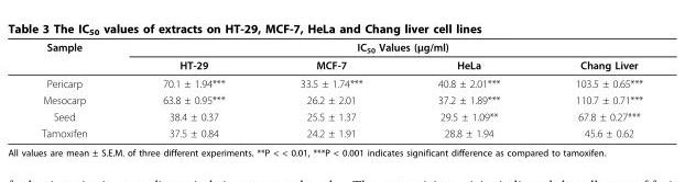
<table><thead><tr><td rowspan="2">Sample</td><td colspan="4">IC<sub>50</sub> Values (μg/ml)</td></tr><tr><td>HT-29</td><td>MCF-7</td><td>HeLa</td><td>Chang Liver</td></tr></thead><tbody><tr><td>Pericarp</td><td>70.1 ± 1.94***</td><td>33.5 ± 1.74***</td><td>40.8 ± 2.01***</td><td>103.5 ± 0.65***</td></tr><tr><td>Mesocarp</td><td>63.8 ± 0.95***</td><td>26.2 ± 2.01</td><td>37.2 ± 1.89***</td><td>110.7 ± 0.71***</td></tr><tr><td>Seed</td><td>38.4 ± 0.37</td><td>25.5 ± 1.37</td><td>29.5 ± 1.09**</td><td>67.8 ± 0.27***</td></tr><tr><td>Tamoxifen</td><td>37.5 ± 0.84</td><td>24.2 ± 1.91</td><td>28.8 ± 1.94</td><td>45.6 ± 0.62</td></tr></tbody></table>